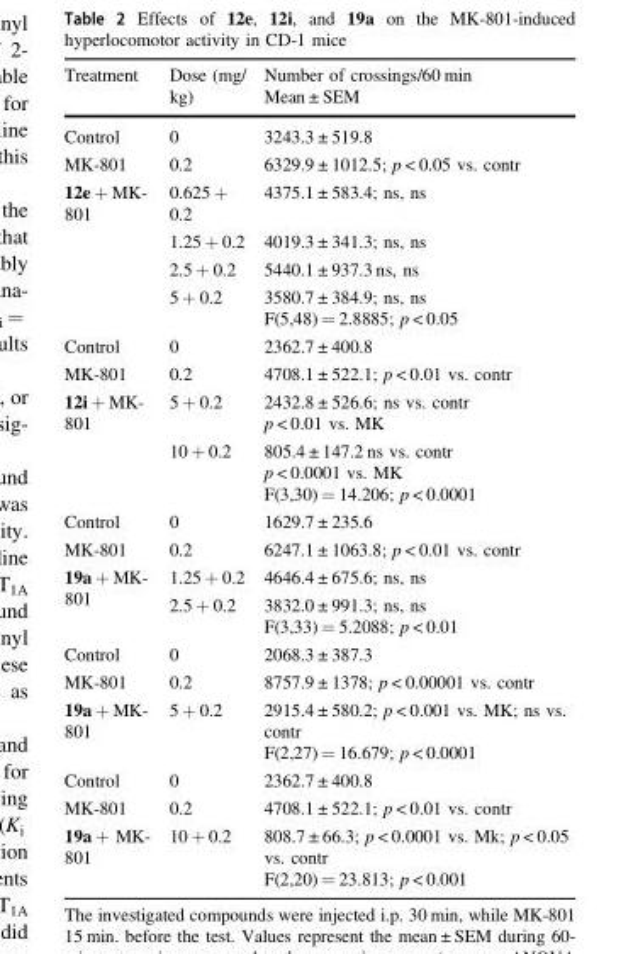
<table><thead><tr><td>Treatment</td><td>Dose (mg/ kg)</td><td>Number of crossings/60 min Mean ± SEM</td></tr></thead><tbody><tr><td>Control</td><td>0</td><td>3243.3 ± 519.8</td></tr><tr><td>MK-801</td><td>0.2</td><td>6329.9 ± 1012.5; p &lt; 0.05 vs. contr</td></tr><tr><td rowspan="4">12e + MK- 801</td><td>0.625 + 0.2</td><td>4375.1 ± 583.4; ns, ns</td></tr><tr><td>1.25 + 0.2</td><td>4019.3 ± 341.3; ns, ns</td></tr><tr><td>2.5 + 0.2</td><td>5440.1 ± 937.3 ns, ns</td></tr><tr><td>5 + 0.2</td><td>3580.7 ± 384.9; ns, ns F(5,48) = 2.8885; p &lt; 0.05</td></tr><tr><td>Control</td><td>0</td><td>2362.7 ± 400.8</td></tr><tr><td>MK-801</td><td>0.2</td><td>4708.1 ± 522.1; p &lt; 0.01 vs. contr</td></tr><tr><td rowspan="2">12i + MK- 801</td><td>5 + 0.2</td><td>2432.8 ± 526.6; ns vs. contr p &lt; 0.01 vs. MK</td></tr><tr><td>10 + 0.2</td><td>805.4 ± 147.2 ns vs. contr p &lt; 0.0001 vs. MK F(3,30) = 14.206; p &lt; 0.0001</td></tr><tr><td>Control</td><td>0</td><td>1629.7 ± 235.6</td></tr><tr><td>MK-801</td><td>0.2</td><td>6247.1 ± 1063.8; p &lt; 0.01 vs. contr</td></tr><tr><td rowspan="2">19a + MK- 801</td><td>1.25 + 0.2</td><td>4646.4 ± 675.6; ns, ns</td></tr><tr><td>2.5 + 0.2</td><td>3832.0 ± 991.3; ns, ns F(3,33) = 5.2088; p &lt; 0.01</td></tr><tr><td>Control</td><td>0</td><td>2068.3 ± 387.3</td></tr><tr><td>MK-801</td><td>0.2</td><td>8757.9 ± 1378; p &lt; 0.00001 vs. contr</td></tr><tr><td>19a + MK- 801</td><td>5 + 0.2</td><td>2915.4 ± 580.2; p &lt; 0.001 vs. MK; ns vs. contr F(2,27) = 16.679; p &lt; 0.0001</td></tr><tr><td>Control</td><td>0</td><td>2362.7 ± 400.8</td></tr><tr><td>MK-801</td><td>0.2</td><td>4708.1 ± 522.1; p &lt; 0.01 vs. contr</td></tr><tr><td>19a + MK- 801</td><td>10 + 0.2</td><td>808.7 ± 66.3; p &lt; 0.0001 vs. Mk; p &lt; 0.05 vs. contr F(2,20) = 23.813; p &lt; 0.001</td></tr></tbody></table>